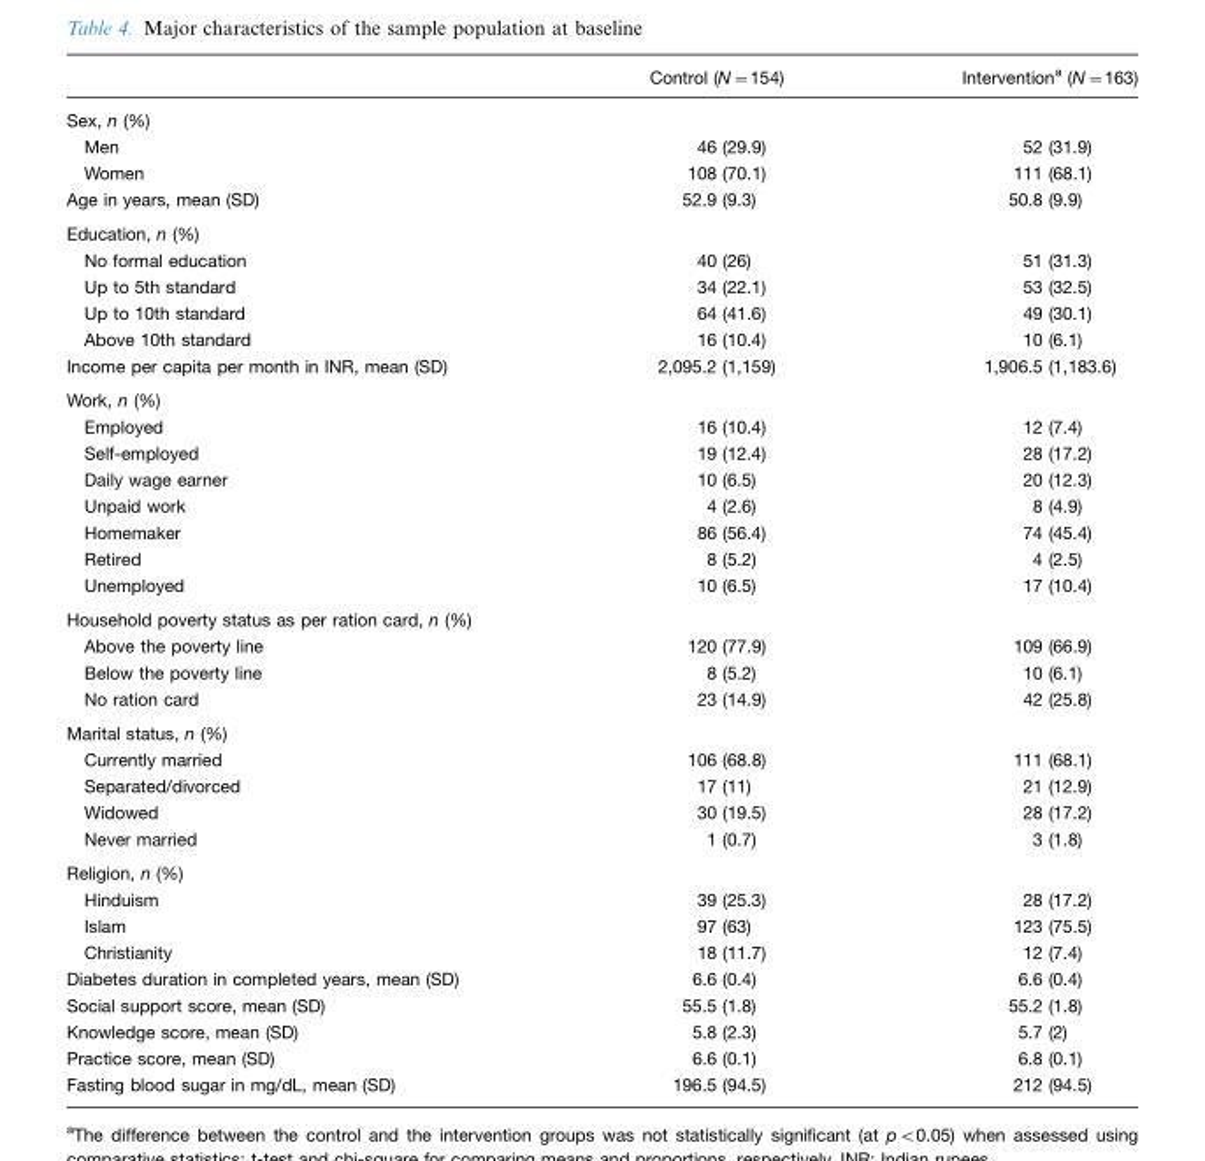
<table><thead><tr><td></td><td>Control (N=154)</td><td>Intervention<sup>a</sup> (N=163)</td></tr></thead><tbody><tr><td colspan="3">Sex, n (%)</td></tr><tr><td>Men</td><td>46 (29.9)</td><td>52 (31.9)</td></tr><tr><td>Women</td><td>108 (70.1)</td><td>111 (68.1)</td></tr><tr><td>Age in years, mean (SD)</td><td>52.9 (9.3)</td><td>50.8 (9.9)</td></tr><tr><td colspan="3">Education, n (%)</td></tr><tr><td>No formal education</td><td>40 (26)</td><td>51 (31.3)</td></tr><tr><td>Up to 5th standard</td><td>34 (22.1)</td><td>53 (32.5)</td></tr><tr><td>Up to 10th standard</td><td>64 (41.6)</td><td>49 (30.1)</td></tr><tr><td>Above 10th standard</td><td>16 (10.4)</td><td>10 (6.1)</td></tr><tr><td>Income per capita per month in INR, mean (SD)</td><td>2,095.2 (1,159)</td><td>1,906.5 (1,183.6)</td></tr><tr><td colspan="3">Work, n (%)</td></tr><tr><td>Employed</td><td>16 (10.4)</td><td>12 (7.4)</td></tr><tr><td>Self-employed</td><td>19 (12.4)</td><td>28 (17.2)</td></tr><tr><td>Daily wage earner</td><td>10 (6.5)</td><td>20 (12.3)</td></tr><tr><td>Unpaid work</td><td>4 (2.6)</td><td>8 (4.9)</td></tr><tr><td>Homemaker</td><td>86 (56.4)</td><td>74 (45.4)</td></tr><tr><td>Retired</td><td>8 (5.2)</td><td>4 (2.5)</td></tr><tr><td>Unemployed</td><td>10 (6.5)</td><td>17 (10.4)</td></tr><tr><td colspan="3">Household poverty status as per ration card, n (%)</td></tr><tr><td>Above the poverty line</td><td>120 (77.9)</td><td>109 (66.9)</td></tr><tr><td>Below the poverty line</td><td>8 (5.2)</td><td>10 (6.1)</td></tr><tr><td>No ration card</td><td>23 (14.9)</td><td>42 (25.8)</td></tr><tr><td colspan="3">Marital status, n (%)</td></tr><tr><td>Currently married</td><td>106 (68.8)</td><td>111 (68.1)</td></tr><tr><td>Separated/divorced</td><td>17 (11)</td><td>21 (12.9)</td></tr><tr><td>Widowed</td><td>30 (19.5)</td><td>28 (17.2)</td></tr><tr><td>Never married</td><td>1 (0.7)</td><td>3 (1.8)</td></tr><tr><td colspan="3">Religion, n (%)</td></tr><tr><td>Hinduism</td><td>39 (25.3)</td><td>28 (17.2)</td></tr><tr><td>Islam</td><td>97 (63)</td><td>123 (75.5)</td></tr><tr><td>Christianity</td><td>18 (11.7)</td><td>12 (7.4)</td></tr><tr><td>Diabetes duration in completed years, mean (SD)</td><td>6.6 (0.4)</td><td>6.6 (0.4)</td></tr><tr><td>Social support score, mean (SD)</td><td>55.5 (1.8)</td><td>55.2 (1.8)</td></tr><tr><td>Knowledge score, mean (SD)</td><td>5.8 (2.3)</td><td>5.7 (2)</td></tr><tr><td>Practice score, mean (SD)</td><td>6.6 (0.1)</td><td>6.8 (0.1)</td></tr><tr><td>Fasting blood sugar in mg/dL, mean (SD)</td><td>196.5 (94.5)</td><td>212 (94.5)</td></tr></tbody></table>